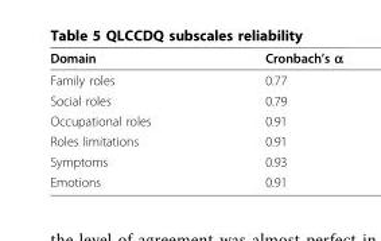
<table><thead><tr><td>Domain</td><td>Cronbach’s</td></tr></thead><tbody><tr><td>Family roles</td><td>0.77</td></tr><tr><td>Social roles</td><td>0.79</td></tr><tr><td>Occupational roles</td><td>0.91</td></tr><tr><td>Roles limitations</td><td>0.91</td></tr><tr><td>Symptoms</td><td>0.93</td></tr><tr><td>Emotions</td><td>0.91</td></tr></tbody></table>